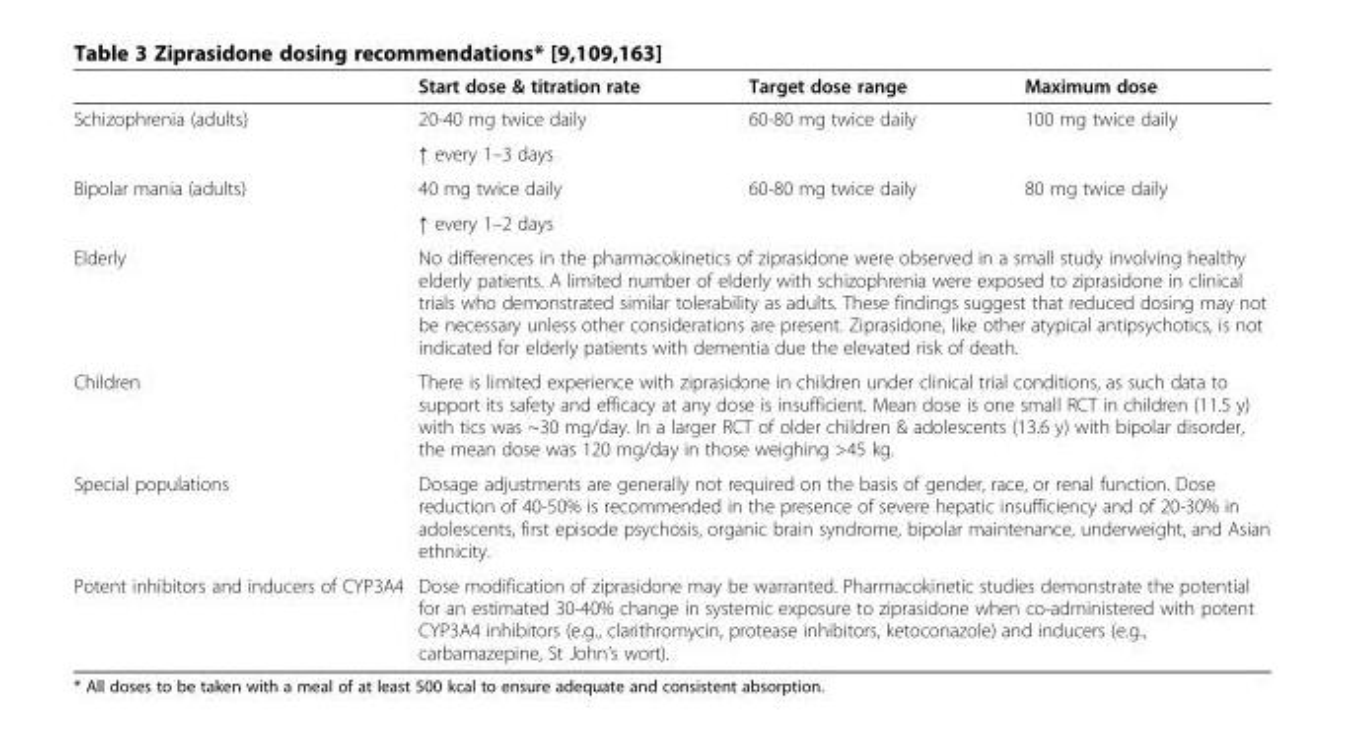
<table><thead><tr><td></td><td>Start dose &amp; titration rate</td><td>Target dose range</td><td>Maximum dose</td></tr></thead><tbody><tr><td rowspan="2">Schizophrenia (adults)</td><td>20-40 mg twice daily</td><td rowspan="2">60-80 mg twice daily</td><td rowspan="2">100 mg twice daily</td></tr><tr><td>↑ every 1–3 days</td></tr><tr><td rowspan="2">Bipolar mania (adults)</td><td>40 mg twice daily</td><td rowspan="2">60-80 mg twice daily</td><td rowspan="2">80 mg twice daily</td></tr><tr><td>↑ every 1–2 days</td></tr><tr><td>Elderly</td><td colspan="3">No differences in the pharmacokinetics of ziprasidone were observed in a small study involving healthy elderly patients. A limited number of elderly with schizophrenia were exposed to ziprasidone in clinical trials who demonstrated similar tolerability as adults. These findings suggest that reduced dosing may not be necessary unless other considerations are present. Ziprasidone, like other atypical antipsychotics, is not indicated for elderly patients with dementia due the elevated risk of death.</td></tr><tr><td>Children</td><td colspan="3">There is limited experience with ziprasidone in children under clinical trial conditions, as such data to support its safety and efficacy at any dose is insufficient. Mean dose is one small RCT in children (11.5 y) with tics was ~30 mg/day. In a larger RCT of older children &amp; adolescents (13.6 y) with bipolar disorder, the mean dose was 120 mg/day in those weighing &gt;45 kg.</td></tr><tr><td>Special populations</td><td colspan="3">Dosage adjustments are generally not required on the basis of gender, race, or renal function. Dose reduction of 40-50% is recommended in the presence of severe hepatic insufficiency and of 20-30% in adolescents, first episode psychosis, organic brain syndrome, bipolar maintenance, underweight, and Asian ethnicity.</td></tr><tr><td>Potent inhibitors and inducers of CYP3A4</td><td colspan="3">Dose modification of ziprasidone may be warranted. Pharmacokinetic studies demonstrate the potential for an estimated 30-40% change in systemic exposure to ziprasidone when co-administered with potent CYP3A4 inhibitors (e.g., clarithromycin, protease inhibitors, ketoconazole) and inducers (e.g., carbamazepine, St John’s wort).</td></tr></tbody></table>